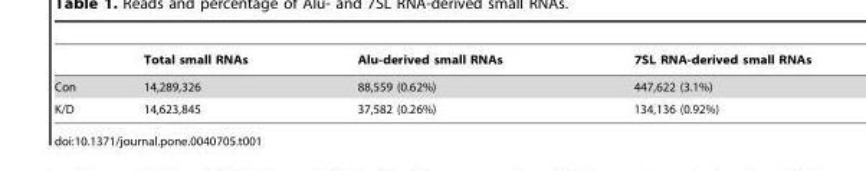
<table><thead><tr><td></td><td>Total small RNAs</td><td>Alu-derived small RNAs</td><td>7SL RNA-derived small RNAs</td></tr></thead><tbody><tr><td>Con</td><td>14,289,326</td><td>88,559 (0.62%)</td><td>447,622 (3.1%)</td></tr><tr><td>K/D</td><td>14,623,845</td><td>37,582 (0.26%)</td><td>134,136 (0.92%)</td></tr></tbody></table>